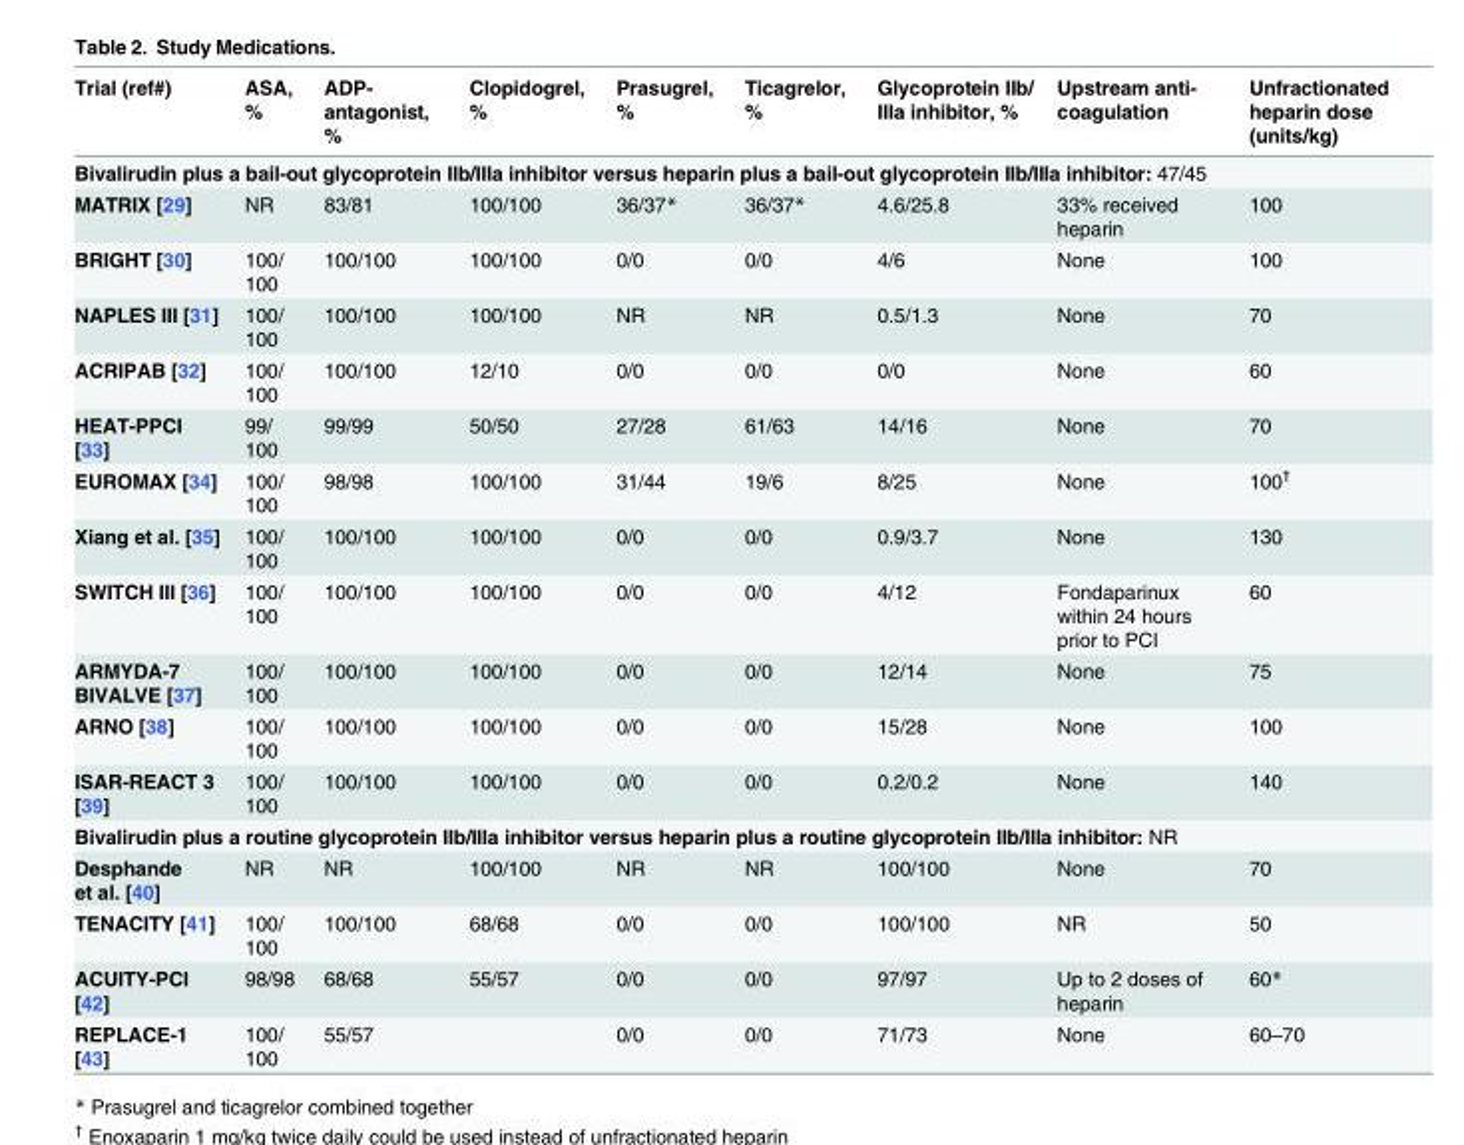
<table><thead><tr><td>Trial (ref#)</td><td>ASA, %</td><td>ADP- antagonist, %</td><td>Clopidogrel, %</td><td>Prasugrel, %</td><td>Ticagrelor, %</td><td>Glycoprotein IIb/ IIIa inhibitor, %</td><td>Upstream anti- coagulation</td><td>Unfractionated heparin dose (units/kg)</td></tr></thead><tbody><tr><td colspan="9">Bivalirudin plus a bail-out glycoprotein IIb/IIIa inhibitor versus heparin plus a bail-out glycoprotein IIb/IIIa inhibitor: 47/45</td></tr><tr><td>MATRIX [29]</td><td>NR</td><td>83/81</td><td>100/100</td><td>36/37*</td><td>36/37*</td><td>4.6/25.8</td><td>33% received heparin</td><td>100</td></tr><tr><td>BRIGHT [30]</td><td>100/ 100</td><td>100/100</td><td>100/100</td><td>0/0</td><td>0/0</td><td>4/6</td><td>None</td><td>100</td></tr><tr><td>NAPLES III [31]</td><td>100/ 100</td><td>100/100</td><td>100/100</td><td>NR</td><td>NR</td><td>0.5/1.3</td><td>None</td><td>70</td></tr><tr><td>ACRIPAB [32]</td><td>100/ 100</td><td>100/100</td><td>12/10</td><td>0/0</td><td>0/0</td><td>0/0</td><td>None</td><td>60</td></tr><tr><td>HEAT-PPCI [33]</td><td>99/ 100</td><td>99/99</td><td>50/50</td><td>27/28</td><td>61/63</td><td>14/16</td><td>None</td><td>70</td></tr><tr><td>EUROMAX [34]</td><td>100/ 100</td><td>98/98</td><td>100/100</td><td>31/44</td><td>19/6</td><td>8/25</td><td>None</td><td>100<sup>†</sup></td></tr><tr><td>Xiang et al. [35]</td><td>100/ 100</td><td>100/100</td><td>100/100</td><td>0/0</td><td>0/0</td><td>0.9/3.7</td><td>None</td><td>130</td></tr><tr><td>SWITCH III [36]</td><td>100/ 100</td><td>100/100</td><td>100/100</td><td>0/0</td><td>0/0</td><td>4/12</td><td>Fondaparinux within 24 hours prior to PCI</td><td>60</td></tr><tr><td>ARMYDA-7 BIVALVE [37]</td><td>100/ 100</td><td>100/100</td><td>100/100</td><td>0/0</td><td>0/0</td><td>12/14</td><td>None</td><td>75</td></tr><tr><td>ARNO [38]</td><td>100/ 100</td><td>100/100</td><td>100/100</td><td>0/0</td><td>0/0</td><td>15/28</td><td>None</td><td>100</td></tr><tr><td>ISAR-REACT 3 [39]</td><td>100/ 100</td><td>100/100</td><td>100/100</td><td>0/0</td><td>0/0</td><td>0.2/0.2</td><td>None</td><td>140</td></tr><tr><td colspan="9">Bivalirudin plus a routine glycoprotein IIb/IIIa inhibitor versus heparin plus a routine glycoprotein IIb/IIIa inhibitor: NR</td></tr><tr><td>Desphande et al. [40]</td><td>NR</td><td>NR</td><td>100/100</td><td>NR</td><td>NR</td><td>100/100</td><td>None</td><td>70</td></tr><tr><td>TENACITY [41]</td><td>100/ 100</td><td>100/100</td><td>68/68</td><td>0/0</td><td>0/0</td><td>100/100</td><td>NR</td><td>50</td></tr><tr><td>ACUITY-PCI [42]</td><td>98/98</td><td>68/68</td><td>55/57</td><td>0/0</td><td>0/0</td><td>97/97</td><td>Up to 2 doses of heparin</td><td>60*</td></tr><tr><td>REPLACE-1 [43]</td><td>100/ 100</td><td>55/57</td><td></td><td>0/0</td><td>0/0</td><td>71/73</td><td>None</td><td>60–70</td></tr></tbody></table>